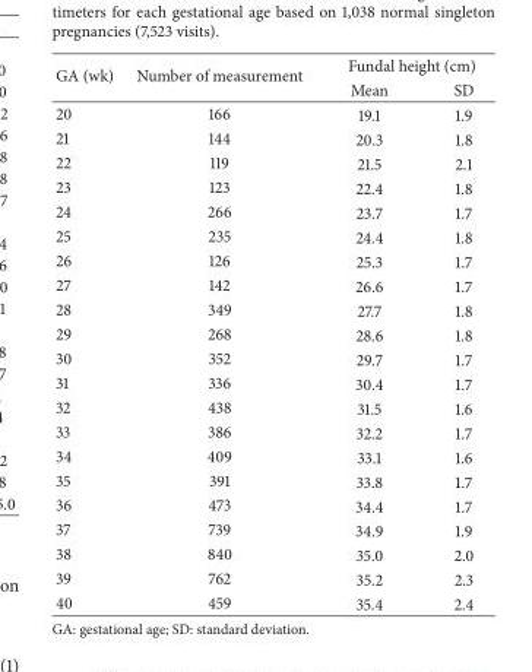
<table><thead><tr><td rowspan="2">GA (wk)</td><td rowspan="2">Number of measurement</td><td colspan="2">Fundal height (cm)</td></tr><tr><td>Mean</td><td>SD</td></tr></thead><tbody><tr><td>20</td><td>166</td><td>19.1</td><td>1.9</td></tr><tr><td>21</td><td>144</td><td>20.3</td><td>1.8</td></tr><tr><td>22</td><td>119</td><td>21.5</td><td>2.1</td></tr><tr><td>23</td><td>123</td><td>22.4</td><td>1.8</td></tr><tr><td>24</td><td>266</td><td>23.7</td><td>1.7</td></tr><tr><td>25</td><td>235</td><td>24.4</td><td>1.8</td></tr><tr><td>26</td><td>126</td><td>25.3</td><td>1.7</td></tr><tr><td>27</td><td>142</td><td>26.6</td><td>1.7</td></tr><tr><td>28</td><td>349</td><td>27.7</td><td>1.8</td></tr><tr><td>29</td><td>268</td><td>28.6</td><td>1.8</td></tr><tr><td>30</td><td>352</td><td>29.7</td><td>1.7</td></tr><tr><td>31</td><td>336</td><td>30.4</td><td>1.7</td></tr><tr><td>32</td><td>438</td><td>31.5</td><td>1.6</td></tr><tr><td>33</td><td>386</td><td>32.2</td><td>1.7</td></tr><tr><td>34</td><td>409</td><td>33.1</td><td>1.6</td></tr><tr><td>35</td><td>391</td><td>33.8</td><td>1.7</td></tr><tr><td>36</td><td>473</td><td>34.4</td><td>1.7</td></tr><tr><td>37</td><td>739</td><td>34.9</td><td>1.9</td></tr><tr><td>38</td><td>840</td><td>35.0</td><td>2.0</td></tr><tr><td>39</td><td>762</td><td>35.2</td><td>2.3</td></tr><tr><td>40</td><td>459</td><td>35.4</td><td>2.4</td></tr></tbody></table>